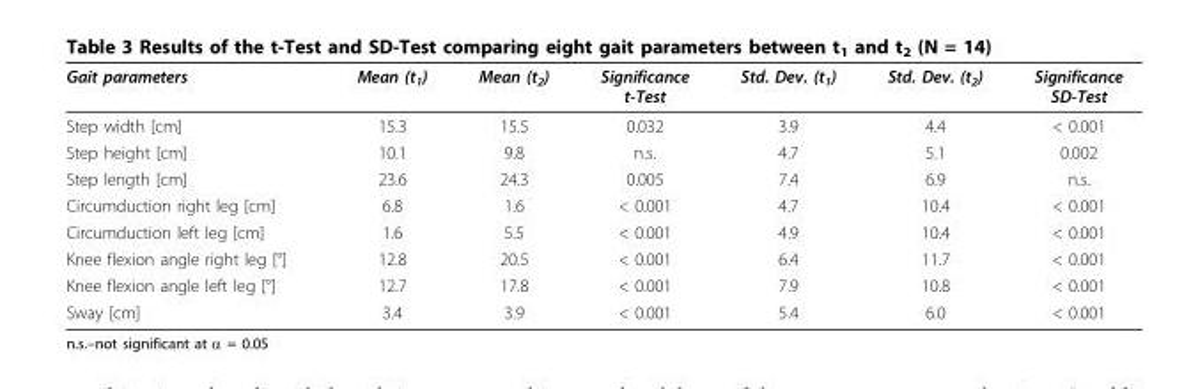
<table><thead><tr><td>Gait parameters</td><td>Mean (t<sub>1</sub>)</td><td>Mean (t<sub>2</sub>)</td><td>Significance t-Test</td><td>Std. Dev. (t<sub>1</sub>)</td><td>Std. Dev. (t<sub>2</sub>)</td><td>Significance SD-Test</td></tr></thead><tbody><tr><td>Step width [cm]</td><td>15.3</td><td>15.5</td><td>0.032</td><td>3.9</td><td>4.4</td><td>&lt; 0.001</td></tr><tr><td>Step height [cm]</td><td>10.1</td><td>9.8</td><td>n.s.</td><td>4.7</td><td>5.1</td><td>0.002</td></tr><tr><td>Step length [cm]</td><td>23.6</td><td>24.3</td><td>0.005</td><td>7.4</td><td>6.9</td><td>n.s.</td></tr><tr><td>Circumduction right leg [cm]</td><td>6.8</td><td>1.6</td><td>&lt; 0.001</td><td>4.7</td><td>10.4</td><td>&lt; 0.001</td></tr><tr><td>Circumduction left leg [cm]</td><td>1.6</td><td>5.5</td><td>&lt; 0.001</td><td>4.9</td><td>10.4</td><td>&lt; 0.001</td></tr><tr><td>Knee flexion angle right leg [°]</td><td>12.8</td><td>20.5</td><td>&lt; 0.001</td><td>6.4</td><td>11.7</td><td>&lt; 0.001</td></tr><tr><td>Knee flexion angle left leg [°]</td><td>12.7</td><td>17.8</td><td>&lt; 0.001</td><td>7.9</td><td>10.8</td><td>&lt; 0.001</td></tr><tr><td>Sway [cm]</td><td>3.4</td><td>3.9</td><td>&lt; 0.001</td><td>5.4</td><td>6.0</td><td>&lt; 0.001</td></tr></tbody></table>